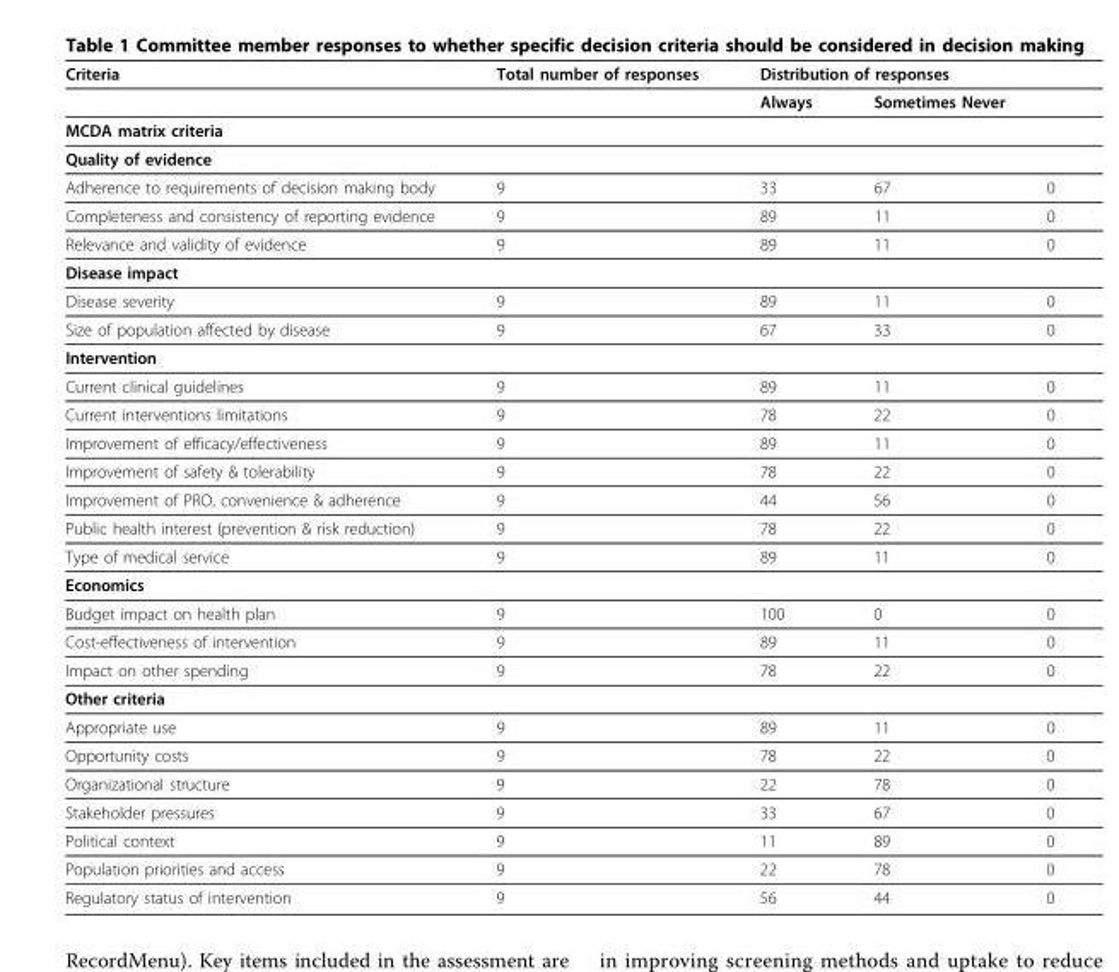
<table><thead><tr><td rowspan="3">Criteria MCDA matrix criteria</td><td rowspan="3">Total number of responses</td><td colspan="3">Distribution of responses</td></tr><tr><td rowspan="2">Always</td><td colspan="2">Sometimes Never</td></tr><tr><td></td><td></td></tr></thead><tbody><tr><td colspan="5">Quality of evidence</td></tr><tr><td>Adherence to requirements of decision making body</td><td>9</td><td>33</td><td>67</td><td>0</td></tr><tr><td>Completeness and consistency of reporting evidence</td><td>9</td><td>89</td><td>11</td><td>0</td></tr><tr><td>Relevance and validity of evidence</td><td>9</td><td>89</td><td>11</td><td>0</td></tr><tr><td colspan="5">Disease impact</td></tr><tr><td>Disease severity</td><td>9</td><td>89</td><td>11</td><td>0</td></tr><tr><td>Size of population affected by disease</td><td>9</td><td>67</td><td>33</td><td>0</td></tr><tr><td colspan="5">Intervention</td></tr><tr><td>Current clinical guidelines</td><td>9</td><td>89</td><td>11</td><td>0</td></tr><tr><td>Current interventions limitations</td><td>9</td><td>78</td><td>22</td><td>0</td></tr><tr><td>Improvement of efficacy/effectiveness</td><td>9</td><td>89</td><td>11</td><td>0</td></tr><tr><td>Improvement of safety &amp; tolerability</td><td>9</td><td>78</td><td>22</td><td>0</td></tr><tr><td>Improvement of PRO, convenience &amp; adherence</td><td>9</td><td>44</td><td>56</td><td>0</td></tr><tr><td>Public health interest (prevention &amp; risk reduction)</td><td>9</td><td>78</td><td>22</td><td>0</td></tr><tr><td>Type of medical service</td><td>9</td><td>89</td><td>11</td><td>0</td></tr><tr><td colspan="5">Economics</td></tr><tr><td>Budget impact on health plan</td><td>9</td><td>100</td><td>0</td><td>0</td></tr><tr><td>Cost-effectiveness of intervention</td><td>9</td><td>89</td><td>11</td><td>0</td></tr><tr><td>Impact on other spending</td><td>9</td><td>78</td><td>22</td><td>0</td></tr><tr><td colspan="5">Other criteria</td></tr><tr><td>Appropriate use</td><td>9</td><td>89</td><td>11</td><td>0</td></tr><tr><td>Opportunity costs</td><td>9</td><td>78</td><td>22</td><td>0</td></tr><tr><td>Organizational structure</td><td>9</td><td>22</td><td>78</td><td>0</td></tr><tr><td>Stakeholder pressures</td><td>9</td><td>33</td><td>67</td><td>0</td></tr><tr><td>Political context</td><td>9</td><td>11</td><td>89</td><td>0</td></tr><tr><td>Population priorities and access</td><td>9</td><td>22</td><td>78</td><td>0</td></tr><tr><td>Regulatory status of intervention</td><td>9</td><td>56</td><td>44</td><td>0</td></tr></tbody></table>